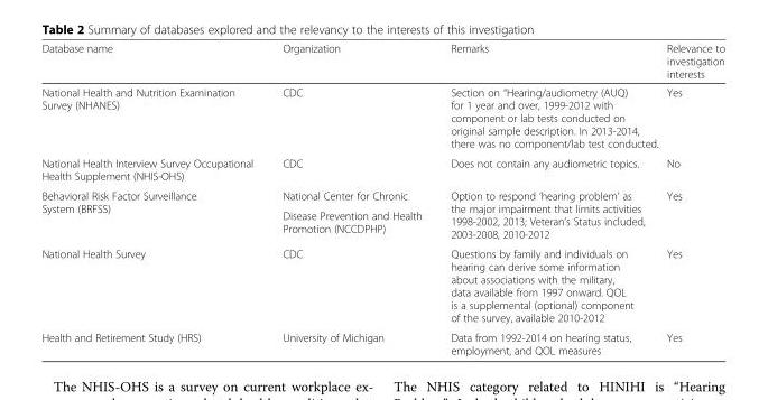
<table><thead><tr><td>Database name</td><td>Organization</td><td>Remarks</td><td>Relevance to investigation interests</td></tr></thead><tbody><tr><td>National Health and Nutrition Examination Survey (NHANES)</td><td>CDC</td><td>Section on “Hearing/audiometry (AUQ) for 1 year and over, 1999-2012 with component or lab tests conducted on original sample description. In 2013-2014, there was no component/lab test conducted.</td><td>Yes</td></tr><tr><td>National Health Interview Survey Occupational Health Supplement (NHIS-OHS)</td><td>CDC</td><td>Does not contain any audiometric topics.</td><td>No</td></tr><tr><td rowspan="2">Behavioral Risk Factor Surveillance System (BRFSS)</td><td>National Center for Chronic</td><td rowspan="2">Option to respond ‘hearing problem’ as the major impairment that limits activities 1998-2002, 2013; Veteran’s Status included, 2003-2008, 2010-2012</td><td rowspan="2">Yes</td></tr><tr><td>Disease Prevention and Health Promotion (NCCDPHP)</td></tr><tr><td>National Health Survey</td><td>CDC</td><td>Questions by family and individuals on hearing can derive some information about associations with the military, data available from 1997 onward. QOL is a supplemental (optional) component of the survey, available 2010-2012</td><td>Yes</td></tr><tr><td>Health and Retirement Study (HRS)</td><td>University of Michigan</td><td>Data from 1992-2014 on hearing status, employment, and QOL measures</td><td>Yes</td></tr></tbody></table>